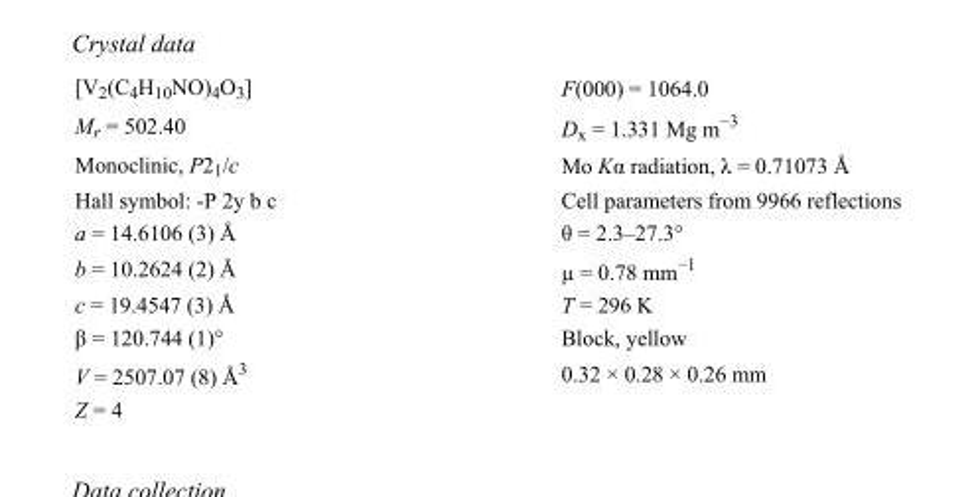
<table><tbody><tr><td>[V<sub>2</sub>(C<sub>4</sub>H<sub>10</sub>NO)<sub>4</sub>O<sub>3</sub>]</td><td>F(000) = 1064.0</td></tr><tr><td>M<sub>r</sub> = 502.40</td><td>D<sub>x</sub> = 1.331 Mg m<sup>−3</sup></td></tr><tr><td>Monoclinic, P2<sub>1</sub>/c</td><td>Mo Kα radiation, λ = 0.71073 Å</td></tr><tr><td>Hall symbol: -P 2y b c</td><td>Cell parameters from 9966 reflections</td></tr><tr><td>a = 14.6106 (3) Å</td><td>θ = 2.3–27.3°</td></tr><tr><td>b = 10.2624 (2) Å</td><td>µ = 0.78 mm<sup>−1</sup></td></tr><tr><td>c = 19.4547 (3) Å</td><td>T = 296 K</td></tr><tr><td>β = 120.744 (1)°</td><td>Block, yellow</td></tr><tr><td>V = 2507.07 (8) Å<sup>3</sup></td><td>0.32 × 0.28 × 0.26 mm</td></tr><tr><td>Z = 4</td><td></td></tr></tbody></table>